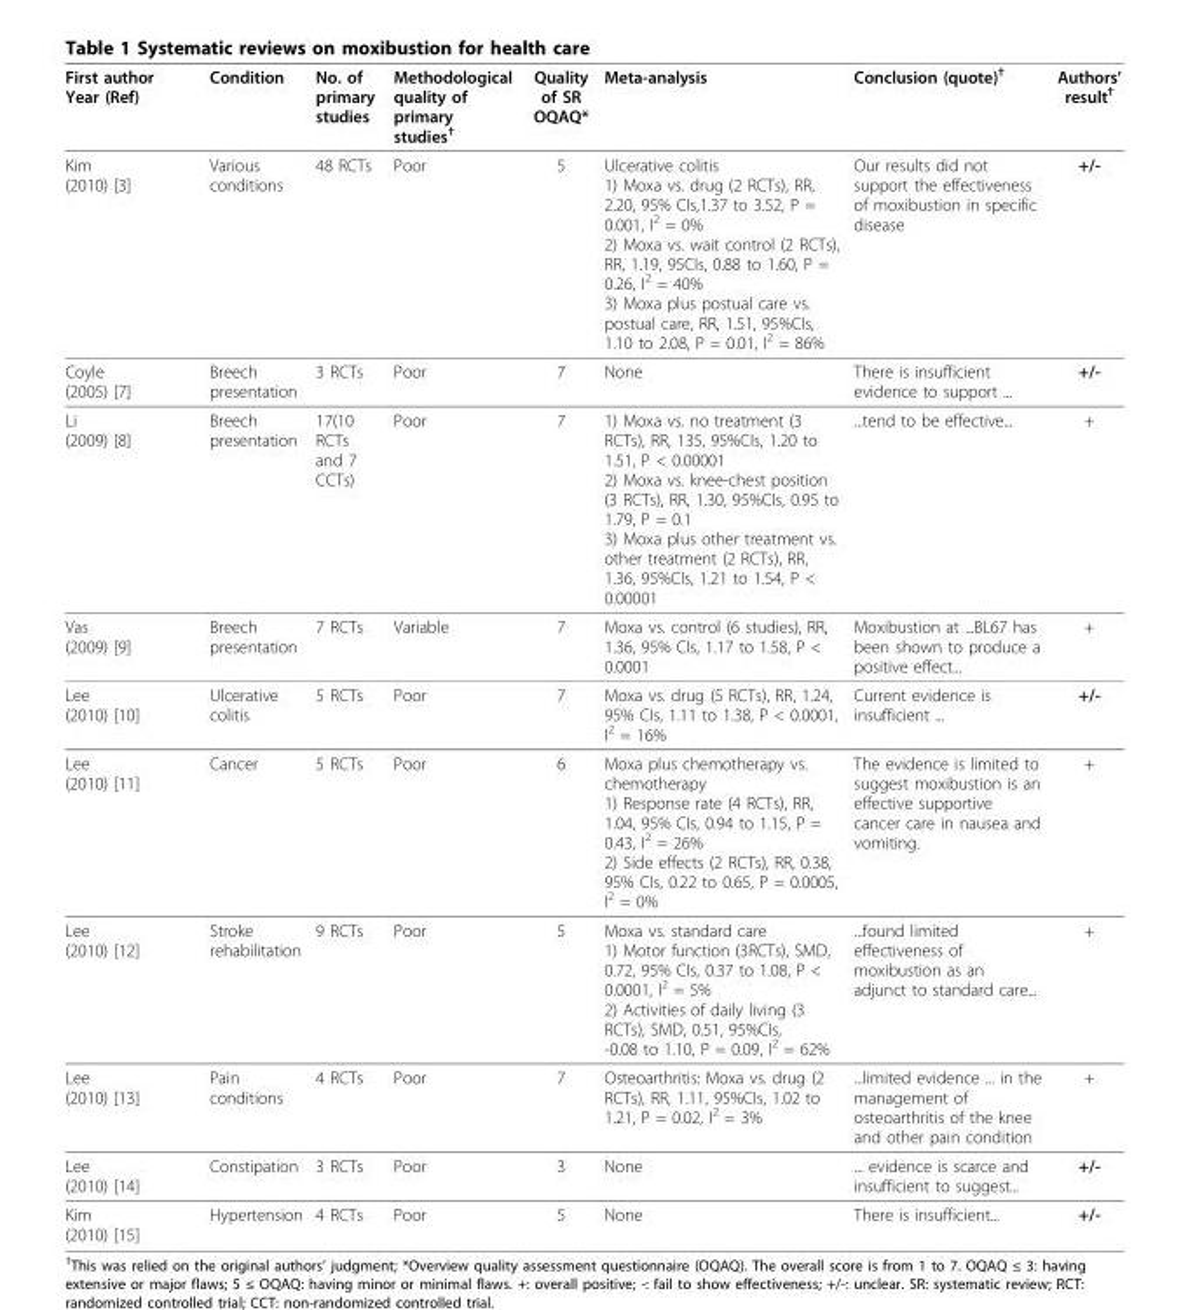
<table><thead><tr><td>First author Year (Ref)</td><td>Condition</td><td>No. of primary studies</td><td>Methodological quality of primary studies<sup>†</sup></td><td>Quality of SR OQAQ*</td><td>Meta-analysis</td><td>Conclusion (quote)<sup>†</sup></td><td>Authors’ result<sup>†</sup></td></tr></thead><tbody><tr><td>Kim (2010) [3]</td><td>Various conditions</td><td>48 RCTs</td><td>Poor</td><td>5</td><td>Ulcerative colitis 1) Moxa vs. drug (2 RCTs), RR, 2.20, 95% CIs,1.37 to 3.52, P = 0.001, I<sup>2</sup> = 0% 2) Moxa vs. wait control (2 RCTs), RR, 1.19, 95CIs, 0.88 to 1.60, P = 0.26, I<sup>2</sup> = 40% 3) Moxa plus postual care vs. postual care, RR, 1.51, 95%CIs, 1.10 to 2.08, P = 0.01, I<sup>2</sup> = 86%</td><td>Our results did not support the effectiveness of moxibustion in specific disease</td><td>+/-</td></tr><tr><td>Coyle (2005) [7]</td><td>Breech presentation</td><td>3 RCTs</td><td>Poor</td><td>7</td><td>None</td><td>There is insufficient evidence to support ...</td><td>+/-</td></tr><tr><td>Li (2009) [8]</td><td>Breech presentation</td><td>17(10 RCTs and 7 CCTs)</td><td>Poor</td><td>7</td><td>1) Moxa vs. no treatment (3 RCTs), RR, 135, 95%CIs, 1.20 to 1.51, P &lt; 0.00001 2) Moxa vs. knee-chest position (3 RCTs), RR, 1.30, 95%CIs, 0.95 to 1.79, P = 0.1 3) Moxa plus other treatment vs. other treatment (2 RCTs), RR, 1.36, 95%CIs, 1.21 to 1.54, P &lt; 0.00001</td><td>...tend to be effective...</td><td>+</td></tr><tr><td>Vas (2009) [9]</td><td>Breech presentation</td><td>7 RCTs</td><td>Variable</td><td>7</td><td>Moxa vs. control (6 studies), RR, 1.36, 95% CIs, 1.17 to 1.58, P &lt; 0.0001</td><td>Moxibustion at ...BL67 has been shown to produce a positive effect...</td><td>+</td></tr><tr><td>Lee (2010) [10]</td><td>Ulcerative colitis</td><td>5 RCTs</td><td>Poor</td><td>7</td><td>Moxa vs. drug (5 RCTs), RR, 1.24, 95% CIs, 1.11 to 1.38, P &lt; 0.0001, I<sup>2</sup> = 16%</td><td>Current evidence is insufficient ...</td><td>+/-</td></tr><tr><td>Lee (2010) [11]</td><td>Cancer</td><td>5 RCTs</td><td>Poor</td><td>6</td><td>Moxa plus chemotherapy vs. chemotherapy 1) Response rate (4 RCTs), RR, 1.04, 95% CIs, 0.94 to 1.15, P = 0.43, I<sup>2</sup> = 26% 2) Side effects (2 RCTs), RR, 0.38, 95% CIs, 0.22 to 0.65, P = 0.0005, I<sup>2</sup> = 0%</td><td>The evidence is limited to suggest moxibustion is an effective supportive cancer care in nausea and vomiting.</td><td>+</td></tr><tr><td>Lee (2010) [12]</td><td>Stroke rehabilitation</td><td>9 RCTs</td><td>Poor</td><td>5</td><td>Moxa vs. standard care 1) Motor function (3RCTs), SMD, 0.72, 95% CIs, 0.37 to 1.08, P &lt; 0.0001, I<sup>2</sup> = 5% 2) Activities of daily living (3 RCTs), SMD, 0.51, 95%CIs, -0.08 to 1.10, P = 0.09, I<sup>2</sup> = 62%</td><td>...found limited effectiveness of moxibustion as an adjunct to standard care...</td><td>+</td></tr><tr><td>Lee (2010) [13]</td><td>Pain conditions</td><td>4 RCTs</td><td>Poor</td><td>7</td><td>Osteoarthritis: Moxa vs. drug (2 RCTs), RR, 1.11, 95%CIs, 1.02 to 1.21, P = 0.02, I<sup>2</sup> = 3%</td><td>...limited evidence ... in the management of osteoarthritis of the knee and other pain condition</td><td>+</td></tr><tr><td>Lee (2010) [14]</td><td>Constipation</td><td>3 RCTs</td><td>Poor</td><td>3</td><td>None</td><td>... evidence is scarce and insufficient to suggest...</td><td>+/-</td></tr><tr><td>Kim (2010) [15]</td><td>Hypertension</td><td>4 RCTs</td><td>Poor</td><td>5</td><td>None</td><td>There is insufficient...</td><td>+/-</td></tr></tbody></table>